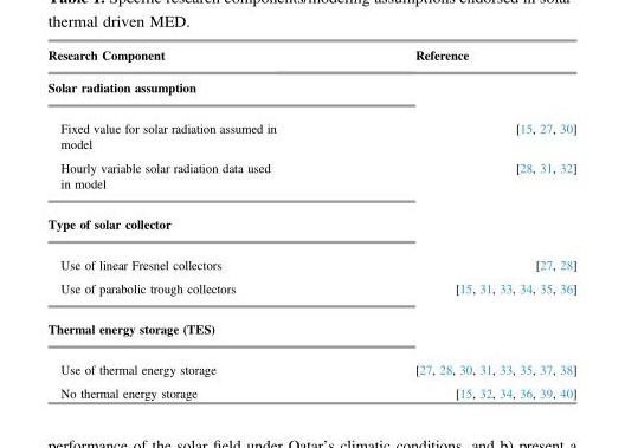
<table><thead><tr><td>Research Component</td><td>Reference</td></tr></thead><tbody><tr><td colspan="2">Solar radiation assumption</td></tr><tr><td>Fixed value for solar radiation assumed in model</td><td>[15, 27, 30]</td></tr><tr><td>Hourly variable solar radiation data used in model</td><td>[28, 31, 32]</td></tr><tr><td colspan="2">Type of solar collector</td></tr><tr><td>Use of linear Fresnel collectors</td><td>[27, 28]</td></tr><tr><td>Use of parabolic trough collectors</td><td>[15, 31, 33, 34, 35, 36]</td></tr><tr><td colspan="2">Thermal energy storage (TES)</td></tr><tr><td>Use of thermal energy storage</td><td>[27, 28, 30, 31, 33, 35, 37, 38]</td></tr><tr><td>No thermal energy storage</td><td>[15, 32, 34, 36, 39, 40]</td></tr></tbody></table>